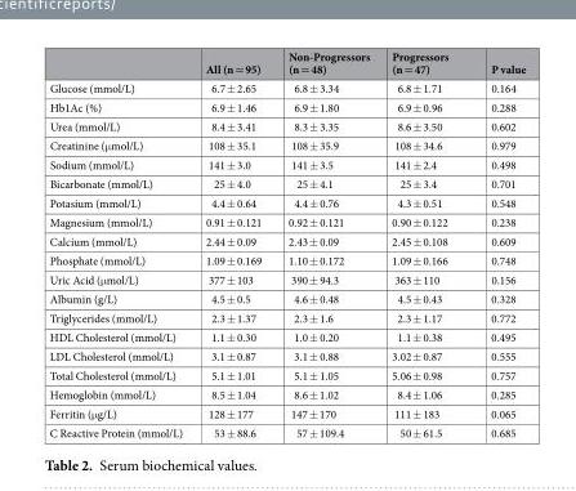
<table><thead><tr><td></td><td>All (n = 95)</td><td>Non-Progressors (n = 48)</td><td>Progressors (n = 47)</td><td>P value</td></tr></thead><tbody><tr><td>Glucose (mmol/L)</td><td>6.7 ± 2.65</td><td>6.8 ± 3.34</td><td>6.8 ± 1.71</td><td>0.164</td></tr><tr><td>Hb1Ac (%)</td><td>6.9 ± 1.46</td><td>6.9 ± 1.80</td><td>6.9 ± 0.96</td><td>0.288</td></tr><tr><td>Urea (mmol/L)</td><td>8.4 ± 3.41</td><td>8.3 ± 3.35</td><td>8.6 ± 3.50</td><td>0.602</td></tr><tr><td>Creatinine (μmol/L)</td><td>108 ± 35.1</td><td>108 ± 35.9</td><td>108 ± 34.6</td><td>0.979</td></tr><tr><td>Sodium (mmol/L)</td><td>141 ± 3.0</td><td>141 ± 3.5</td><td>141 ± 2.4</td><td>0.498</td></tr><tr><td>Bicarbonate (mmol/L)</td><td>25 ± 4.0</td><td>25 ± 4.1</td><td>25 ± 3.4</td><td>0.701</td></tr><tr><td>Potasium (mmol/L)</td><td>4.4 ± 0.64</td><td>4.4 ± 0.76</td><td>4.3 ± 0.51</td><td>0.548</td></tr><tr><td>Magnesium (mmol/L)</td><td>0.91 ± 0.121</td><td>0.92 ± 0.121</td><td>0.90 ± 0.122</td><td>0.238</td></tr><tr><td>Calcium (mmol/L)</td><td>2.44 ± 0.09</td><td>2.43 ± 0.09</td><td>2.45 ± 0.108</td><td>0.609</td></tr><tr><td>Phosphate (mmol/L)</td><td>1.09 ± 0.169</td><td>1.10 ± 0.172</td><td>1.09 ± 0.166</td><td>0.748</td></tr><tr><td>Uric Acid (μmol/L)</td><td>377 ± 103</td><td>390 ± 94.3</td><td>363 ± 110</td><td>0.156</td></tr><tr><td>Albumin (g/L)</td><td>4.5 ± 0.5</td><td>4.6 ± 0.48</td><td>4.5 ± 0.43</td><td>0.328</td></tr><tr><td>Triglycerides (mmol/L)</td><td>2.3 ± 1.37</td><td>2.3 ± 1.6</td><td>2.3 ± 1.17</td><td>0.772</td></tr><tr><td>HDL Cholesterol (mmol/L)</td><td>1.1 ± 0.30</td><td>1.0 ± 0.20</td><td>1.1 ± 0.38</td><td>0.495</td></tr><tr><td>LDL Cholesterol (mmol/L)</td><td>3.1 ± 0.87</td><td>3.1 ± 0.88</td><td>3.02 ± 0.87</td><td>0.555</td></tr><tr><td>Total Cholesterol (mmol/L)</td><td>5.1 ± 1.01</td><td>5.1 ± 1.05</td><td>5.06 ± 0.98</td><td>0.757</td></tr><tr><td>Hemoglobin (mmol/L)</td><td>8.5 ± 1.04</td><td>8.6 ± 1.02</td><td>8.4 ± 1.06</td><td>0.285</td></tr><tr><td>Ferritin (μg/L)</td><td>128 ± 177</td><td>147 ± 170</td><td>111 ± 183</td><td>0.065</td></tr><tr><td>C Reactive Protein (mmol/L)</td><td>53 ± 88.6</td><td>57 ± 109.4</td><td>50 ± 61.5</td><td>0.685</td></tr></tbody></table>